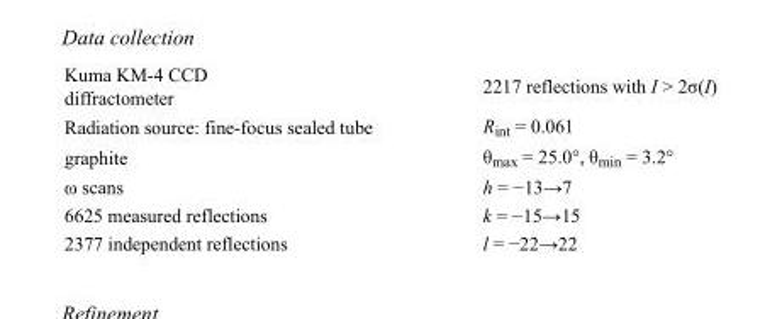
<table><tbody><tr><td>Kuma KM-4 CCD diffractometer</td><td>2217 reflections with I &gt; 2σ(I)</td></tr><tr><td>Radiation source: fine-focus sealed tube</td><td>R<sub>int</sub> = 0.061</td></tr><tr><td>graphite</td><td>θ<sub>max</sub> = 25.0°, θ<sub>min</sub> = 3.2°</td></tr><tr><td>ω scans</td><td>h = −13→7</td></tr><tr><td>6625 measured reflections</td><td>k = −15→15</td></tr><tr><td>2377 independent reflections</td><td>l = −22→22</td></tr></tbody></table>